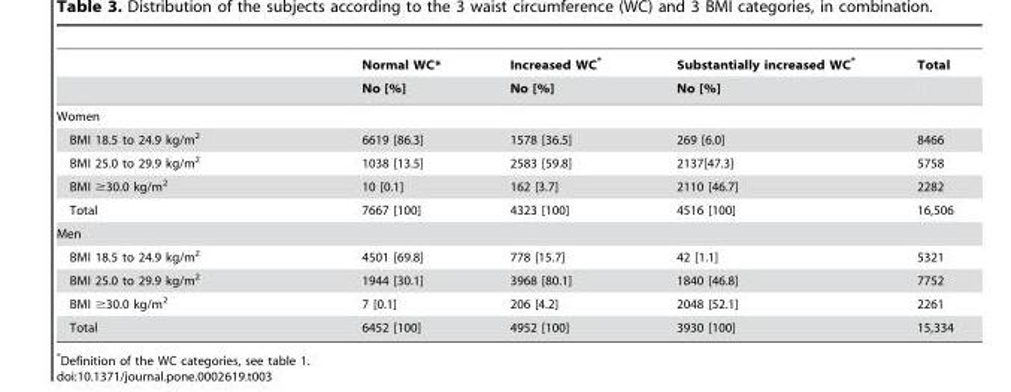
<table><thead><tr><td rowspan="2"></td><td rowspan="2">Normal WC* No [%]</td><td rowspan="2">Increased WC* No [%]</td><td rowspan="2">Substantially increased WC* No [%]</td><td rowspan="2">Total</td></tr><tr></tr></thead><tbody><tr><td colspan="5">Women</td></tr><tr><td>BMI 18.5 to 24.9 kg/m<sup>2</sup></td><td>6619 [86.3]</td><td>1578 [36.5]</td><td>269 [6.0]</td><td>8466</td></tr><tr><td>BMI 25.0 to 29.9 kg/m<sup>2</sup></td><td>1038 [13.5]</td><td>2583 [59.8]</td><td>2137[47.3]</td><td>5758</td></tr><tr><td>BMI ≥30.0 kg/m<sup>2</sup></td><td>10 [0.1]</td><td>162 [3.7]</td><td>2110 [46.7]</td><td>2282</td></tr><tr><td>Total</td><td>7667 [100]</td><td>4323 [100]</td><td>4516 [100]</td><td>16,506</td></tr><tr><td colspan="5">Men</td></tr><tr><td>BMI 18.5 to 24.9 kg/m<sup>2</sup></td><td>4501 [69.8]</td><td>778 [15.7]</td><td>42 [1.1]</td><td>5321</td></tr><tr><td>BMI 25.0 to 29.9 kg/m<sup>2</sup></td><td>1944 [30.1]</td><td>3968 [80.1]</td><td>1840 [46.8]</td><td>7752</td></tr><tr><td>BMI ≥30.0 kg/m<sup>2</sup></td><td>7 [0.1]</td><td>206 [4.2]</td><td>2048 [52.1]</td><td>2261</td></tr><tr><td>Total</td><td>6452 [100]</td><td>4952 [100]</td><td>3930 [100]</td><td>15,334</td></tr></tbody></table>